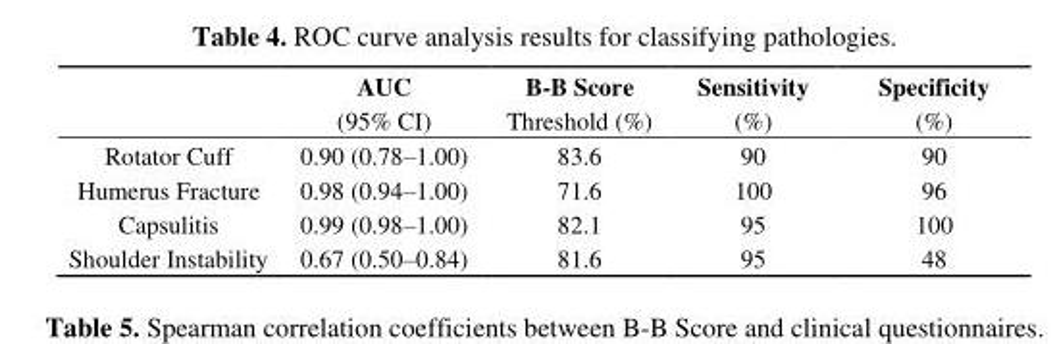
<table><thead><tr><td></td><td>AUC (95% CI)</td><td>B-B Score Threshold (%)</td><td>Sensitivity (%)</td><td>Specificity (%)</td></tr></thead><tbody><tr><td>Rotator Cuff</td><td>0.90 (0.78–1.00)</td><td>83.6</td><td>90</td><td>90</td></tr><tr><td>Humerus Fracture</td><td>0.98 (0.94–1.00)</td><td>71.6</td><td>100</td><td>96</td></tr><tr><td>Capsulitis</td><td>0.99 (0.98–1.00)</td><td>82.1</td><td>95</td><td>100</td></tr><tr><td>Shoulder Instability</td><td>0.67 (0.50–0.84)</td><td>81.6</td><td>95</td><td>48</td></tr></tbody></table>